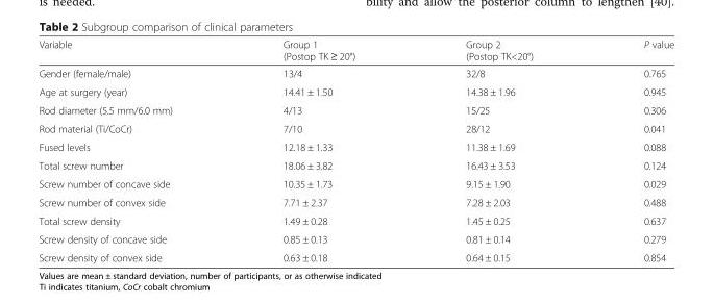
<table><thead><tr><td>Variable</td><td>Group 1 (Postop TK ≥ 20°)</td><td>Group 2 (Postop TK&lt;20°)</td><td>P value</td></tr></thead><tbody><tr><td>Gender (female/male)</td><td>13/4</td><td>32/8</td><td>0.765</td></tr><tr><td>Age at surgery (year)</td><td>14.41 ± 1.50</td><td>14.38 ± 1.96</td><td>0.945</td></tr><tr><td>Rod diameter (5.5 mm/6.0 mm)</td><td>4/13</td><td>15/25</td><td>0.306</td></tr><tr><td>Rod material (Ti/CoCr)</td><td>7/10</td><td>28/12</td><td>0.041</td></tr><tr><td>Fused levels</td><td>12.18 ± 1.33</td><td>11.38 ± 1.69</td><td>0.088</td></tr><tr><td>Total screw number</td><td>18.06 ± 3.82</td><td>16.43 ± 3.53</td><td>0.124</td></tr><tr><td>Screw number of concave side</td><td>10.35 ± 1.73</td><td>9.15 ± 1.90</td><td>0.029</td></tr><tr><td>Screw number of convex side</td><td>7.71 ± 2.37</td><td>7.28 ± 2.03</td><td>0.488</td></tr><tr><td>Total screw density</td><td>1.49 ± 0.28</td><td>1.45 ± 0.25</td><td>0.637</td></tr><tr><td>Screw density of concave side</td><td>0.85 ± 0.13</td><td>0.81 ± 0.14</td><td>0.279</td></tr><tr><td>Screw density of convex side</td><td>0.63 ± 0.18</td><td>0.64 ± 0.15</td><td>0.854</td></tr></tbody></table>